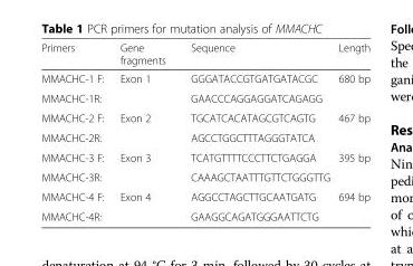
<table><thead><tr><td>Primers</td><td>Gene fragments</td><td>Sequence</td><td>Length</td></tr></thead><tbody><tr><td>MMACHC-1 F:</td><td rowspan="2">Exon 1</td><td>GGGATACCGTGATGATACGC</td><td rowspan="2">680 bp</td></tr><tr><td>MMACHC-1R:</td><td>GAACCCAGGAGGATCAGAGG</td></tr><tr><td>MMACHC-2 F:</td><td rowspan="2">Exon 2</td><td>TGCATCACATAGCGTCAGTG</td><td rowspan="2">467 bp</td></tr><tr><td>MMACHC-2R:</td><td>AGCCTGGCTTTAGGGTATCA</td></tr><tr><td>MMACHC-3 F:</td><td rowspan="2">Exon 3</td><td>TCATGTTTTCCCTTCTGAGGA</td><td rowspan="2">395 bp</td></tr><tr><td>MMACHC-3R:</td><td>CAAAGCTAATTTGTTCTGGGTTG</td></tr><tr><td>MMACHC-4 F:</td><td rowspan="2">Exon 4</td><td>AGGCCTAGCTTGCAATGATG</td><td rowspan="2">694 bp</td></tr><tr><td>MMACHC-4R:</td><td>GAAGGCAGATGGGAATTCTG</td></tr></tbody></table>